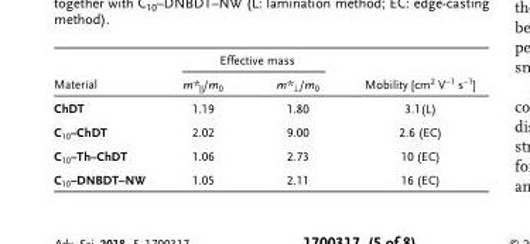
<table><thead><tr><td rowspan="2">Material</td><td colspan="2">Effective mass</td><td rowspan="2">Mobility [cm<sup>2</sup> V<sup>−1</sup> s<sup>−1</sup>]</td></tr><tr><td>m*<sub>||</sub>/m<sub>0</sub></td><td>m*<sub>⊥</sub>/m<sub>0</sub></td></tr></thead><tbody><tr><td>ChDT</td><td>1.19</td><td>1.80</td><td>3.1(L)</td></tr><tr><td>C<sub>10</sub>–ChDT</td><td>2.02</td><td>9.00</td><td>2.6 (EC)</td></tr><tr><td>C<sub>10</sub>–Th–ChDT</td><td>1.06</td><td>2.73</td><td>10 (EC)</td></tr><tr><td>C<sub>10</sub>–DNBDT–NW</td><td>1.05</td><td>2.11</td><td>16 (EC)</td></tr></tbody></table>